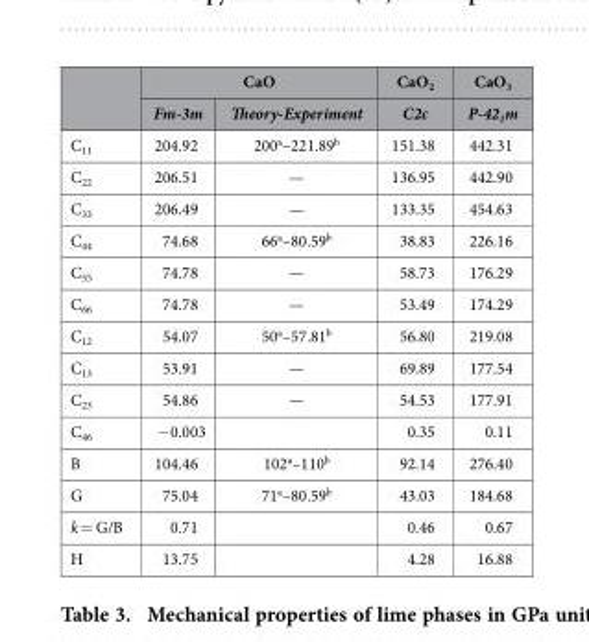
<table><thead><tr><td rowspan="2"></td><td colspan="2">CaO</td><td rowspan="2">CaO<sub>2</sub> C2c</td><td rowspan="2">CaO<sub>3</sub> P-42<sub>1</sub>m</td></tr><tr><td>Fm-3m</td><td>Theory-Experiment</td></tr></thead><tbody><tr><td>C<sub>11</sub></td><td>204.92</td><td>200<sup>a</sup>–221.89<sup>b</sup></td><td>151.38</td><td>442.31</td></tr><tr><td>C<sub>22</sub></td><td>206.51</td><td>—</td><td>136.95</td><td>442.90</td></tr><tr><td>C<sub>33</sub></td><td>206.49</td><td>—</td><td>133.35</td><td>454.63</td></tr><tr><td>C<sub>44</sub></td><td>74.68</td><td>66<sup>a</sup>–80.59<sup>b</sup></td><td>38.83</td><td>226.16</td></tr><tr><td>C<sub>55</sub></td><td>74.78</td><td>—</td><td>58.73</td><td>176.29</td></tr><tr><td>C<sub>66</sub></td><td>74.78</td><td>—</td><td>53.49</td><td>174.29</td></tr><tr><td>C<sub>12</sub></td><td>54.07</td><td>50<sup>a</sup>–57.81<sup>b</sup></td><td>56.80</td><td>219.08</td></tr><tr><td>C<sub>13</sub></td><td>53.91</td><td>—</td><td>69.89</td><td>177.54</td></tr><tr><td>C<sub>23</sub></td><td>54.86</td><td>—</td><td>54.53</td><td>177.91</td></tr><tr><td>C<sub>46</sub></td><td>− 0.003</td><td></td><td>0.35</td><td>0.11</td></tr><tr><td>B</td><td>104.46</td><td>102<sup>a</sup>–110<sup>b</sup></td><td>92.14</td><td>276.40</td></tr><tr><td>G</td><td>75.04</td><td>71<sup>a</sup>–80.59<sup>b</sup></td><td>43.03</td><td>184.68</td></tr><tr><td>k = G/B</td><td>0.71</td><td></td><td>0.46</td><td>0.67</td></tr><tr><td>H</td><td>13.75</td><td></td><td>4.28</td><td>16.88</td></tr></tbody></table>